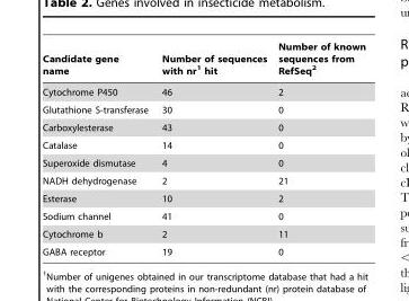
<table><thead><tr><td>Candidate gene name</td><td>Number of sequences with nr<sup>1</sup> hit</td><td>Number of known sequences from RefSeq<sup>2</sup></td></tr></thead><tbody><tr><td>Cytochrome P450</td><td>46</td><td>2</td></tr><tr><td>Glutathione S-transferase</td><td>30</td><td>0</td></tr><tr><td>Carboxylesterase</td><td>43</td><td>0</td></tr><tr><td>Catalase</td><td>14</td><td>0</td></tr><tr><td>Superoxide dismutase</td><td>4</td><td>0</td></tr><tr><td>NADH dehydrogenase</td><td>2</td><td>21</td></tr><tr><td>Esterase</td><td>10</td><td>2</td></tr><tr><td>Sodium channel</td><td>41</td><td>0</td></tr><tr><td>Cytochrome b</td><td>2</td><td>11</td></tr><tr><td>GABA receptor</td><td>19</td><td>0</td></tr></tbody></table>